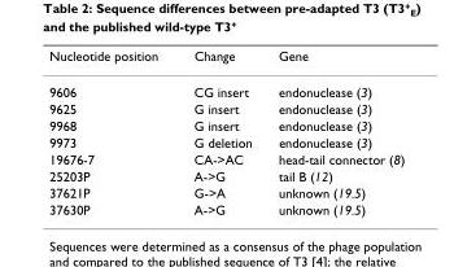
<table><thead><tr><td>Nucleotide position</td><td>Change</td><td>Gene</td></tr></thead><tbody><tr><td>9606</td><td>CG insert</td><td>endonuclease (3)</td></tr><tr><td>9625</td><td>G insert</td><td>endonuclease (3)</td></tr><tr><td>9968</td><td>G insert</td><td>endonuclease (3)</td></tr><tr><td>9973</td><td>G deletion</td><td>endonuclease (3)</td></tr><tr><td>19676-7</td><td>CA-&gt;AC</td><td>head-tail connector (8)</td></tr><tr><td>25203P</td><td>A-&gt;G</td><td>tail B (12)</td></tr><tr><td>37621P</td><td>G-&gt;A</td><td>unknown (19.5)</td></tr><tr><td>37630P</td><td>A-&gt;G</td><td>unknown (19.5)</td></tr></tbody></table>